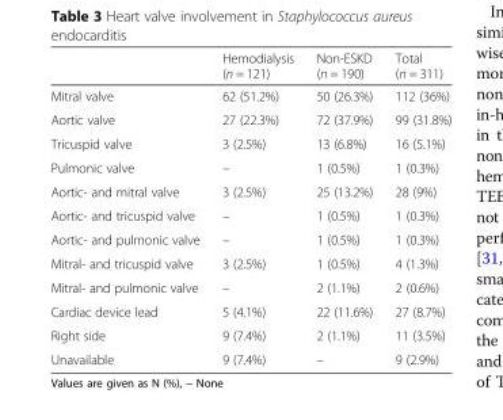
<table><thead><tr><td></td><td>Hemodialysis (n = 121)</td><td>Non-ESKD (n = 190)</td><td>Total (n = 311)</td></tr></thead><tbody><tr><td>Mitral valve</td><td>62 (51.2%)</td><td>50 (26.3%)</td><td>112 (36%)</td></tr><tr><td>Aortic valve</td><td>27 (22.3%)</td><td>72 (37.9%)</td><td>99 (31.8%)</td></tr><tr><td>Tricuspid valve</td><td>3 (2.5%)</td><td>13 (6.8%)</td><td>16 (5.1%)</td></tr><tr><td>Pulmonic valve</td><td>–</td><td>1 (0.5%)</td><td>1 (0.3%)</td></tr><tr><td>Aortic- and mitral valve</td><td>3 (2.5%)</td><td>25 (13.2%)</td><td>28 (9%)</td></tr><tr><td>Aortic- and tricuspid valve</td><td>–</td><td>1 (0.5%)</td><td>1 (0.3%)</td></tr><tr><td>Aortic- and pulmonic valve</td><td>–</td><td>1 (0.5%)</td><td>1 (0.3%)</td></tr><tr><td>Mitral- and tricuspid valve</td><td>3 (2.5%)</td><td>1 (0.5%)</td><td>4 (1.3%)</td></tr><tr><td>Mitral- and pulmonic valve</td><td>–</td><td>2 (1.1%)</td><td>2 (0.6%)</td></tr><tr><td>Cardiac device lead</td><td>5 (4.1%)</td><td>22 (11.6%)</td><td>27 (8.7%)</td></tr><tr><td>Right side</td><td>9 (7.4%)</td><td>2 (1.1%)</td><td>11 (3.5%)</td></tr><tr><td>Unavailable</td><td>9 (7.4%)</td><td>–</td><td>9 (2.9%)</td></tr></tbody></table>